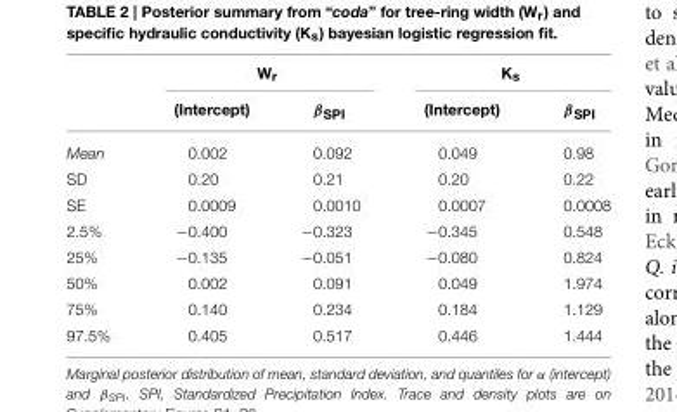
<table><thead><tr><td rowspan="2"></td><td colspan="2">W<sub>r</sub></td><td colspan="2">K<sub>s</sub></td></tr><tr><td>(Intercept)</td><td>β<sub>SPI</sub></td><td>(Intercept)</td><td>β<sub>SPI</sub></td></tr></thead><tbody><tr><td>Mean</td><td>0.002</td><td>0.092</td><td>0.049</td><td>0.98</td></tr><tr><td>SD</td><td>0.20</td><td>0.21</td><td>0.20</td><td>0.22</td></tr><tr><td>SE</td><td>0.0009</td><td>0.0010</td><td>0.0007</td><td>0.0008</td></tr><tr><td>2.5%</td><td>−0.400</td><td>−0.323</td><td>−0.345</td><td>0.548</td></tr><tr><td>25%</td><td>−0.135</td><td>−0.051</td><td>−0.080</td><td>0.824</td></tr><tr><td>50%</td><td>0.002</td><td>0.091</td><td>0.049</td><td>1.974</td></tr><tr><td>75%</td><td>0.140</td><td>0.234</td><td>0.184</td><td>1.129</td></tr><tr><td>97.5%</td><td>0.405</td><td>0.517</td><td>0.446</td><td>1.444</td></tr></tbody></table>